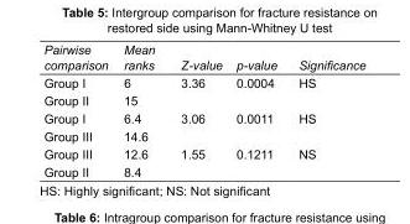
<table><tbody><tr><td>Pairwise comparison</td><td>Mean ranks</td><td>Z-value</td><td>p-value</td><td>Significance</td></tr><tr><td>Group I</td><td>6</td><td>3.36</td><td>0.0004</td><td>HS</td></tr><tr><td>Group II</td><td>15</td><td></td><td></td><td></td></tr><tr><td>Group I</td><td>6.4</td><td>3.06</td><td>0.0011</td><td>HS</td></tr><tr><td>Group III</td><td>14.6</td><td></td><td></td><td></td></tr><tr><td>Group III</td><td>12.6</td><td>1.55</td><td>0.1211</td><td>NS</td></tr><tr><td>Group II</td><td>8.4</td><td></td><td></td><td></td></tr></tbody></table>